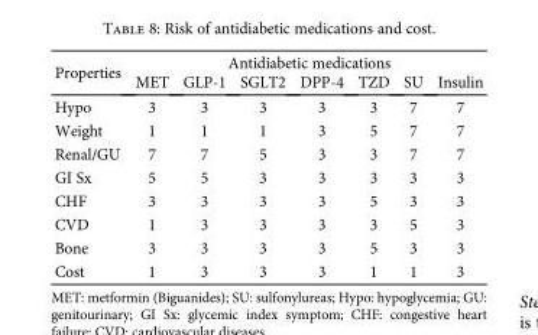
<table><thead><tr><td rowspan="2">Properties</td><td colspan="7">Antidiabetic medications</td></tr><tr><td>MET</td><td>GLP-1</td><td>SGLT2</td><td>DPP-4</td><td>TZD</td><td>SU</td><td>Insulin</td></tr></thead><tbody><tr><td>Hypo</td><td>3</td><td>3</td><td>3</td><td>3</td><td>3</td><td>7</td><td>7</td></tr><tr><td>Weight</td><td>1</td><td>1</td><td>1</td><td>3</td><td>5</td><td>7</td><td>7</td></tr><tr><td>Renal/GU</td><td>7</td><td>7</td><td>5</td><td>3</td><td>3</td><td>7</td><td>7</td></tr><tr><td>GI Sx</td><td>5</td><td>5</td><td>3</td><td>3</td><td>3</td><td>3</td><td>3</td></tr><tr><td>CHF</td><td>3</td><td>3</td><td>3</td><td>3</td><td>5</td><td>3</td><td>3</td></tr><tr><td>CVD</td><td>1</td><td>3</td><td>3</td><td>3</td><td>3</td><td>5</td><td>3</td></tr><tr><td>Bone</td><td>3</td><td>3</td><td>3</td><td>3</td><td>5</td><td>3</td><td>3</td></tr><tr><td>Cost</td><td>1</td><td>3</td><td>3</td><td>3</td><td>1</td><td>1</td><td>3</td></tr></tbody></table>